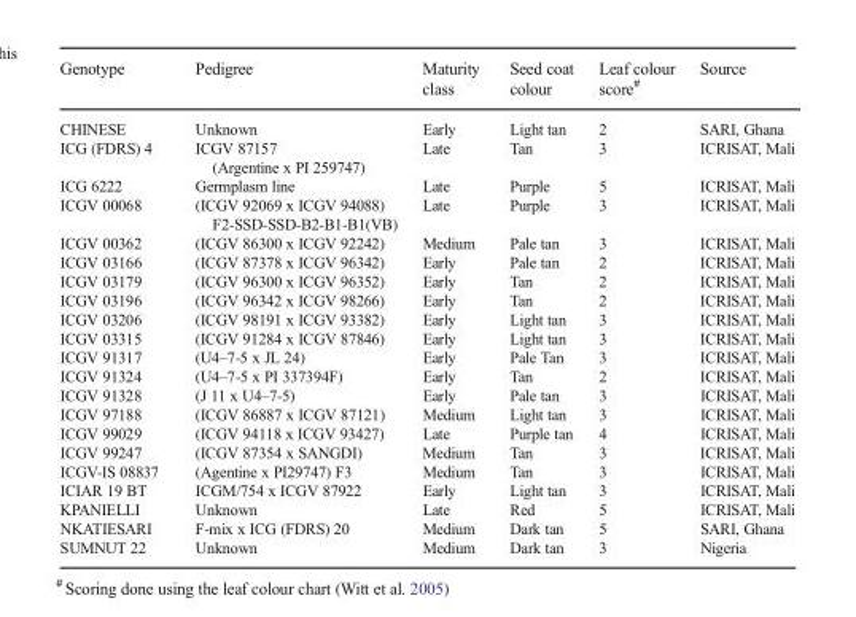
<table><thead><tr><td>Genotype</td><td>Pedigree</td><td>Maturity class</td><td>Seed coat colour</td><td>Leaf colour score<sup>#</sup></td><td>Source</td></tr></thead><tbody><tr><td>CHINESE</td><td>Unknown</td><td>Early</td><td>Light tan</td><td>2</td><td>SARI, Ghana</td></tr><tr><td>ICG (FDRS) 4</td><td>ICGV 87157 (Argentine x PI 259747)</td><td>Late</td><td>Tan</td><td>3</td><td>ICRISAT, Mali</td></tr><tr><td>ICG 6222</td><td>Germplasm line</td><td>Late</td><td>Purple</td><td>5</td><td>ICRISAT, Mali</td></tr><tr><td>ICGV 00068</td><td>(ICGV 92069 x ICGV 94088) F2-SSD-SSD-B2-B1-B1(VB)</td><td>Late</td><td>Purple</td><td>3</td><td>ICRISAT, Mali</td></tr><tr><td>ICGV 00362</td><td>(ICGV 86300 x ICGV 92242)</td><td>Medium</td><td>Pale tan</td><td>3</td><td>ICRISAT, Mali</td></tr><tr><td>ICGV 03166</td><td>(ICGV 87378 x ICGV 96342)</td><td>Early</td><td>Pale tan</td><td>2</td><td>ICRISAT, Mali</td></tr><tr><td>ICGV 03179</td><td>(ICGV 96300 x ICGV 96352)</td><td>Early</td><td>Tan</td><td>2</td><td>ICRISAT, Mali</td></tr><tr><td>ICGV 03196</td><td>(ICGV 96342 x ICGV 98266)</td><td>Early</td><td>Tan</td><td>2</td><td>ICRISAT, Mali</td></tr><tr><td>ICGV 03206</td><td>(ICGV 98191 x ICGV 93382)</td><td>Early</td><td>Light tan</td><td>3</td><td>ICRISAT, Mali</td></tr><tr><td>ICGV 03315</td><td>(ICGV 91284 x ICGV 87846)</td><td>Early</td><td>Light tan</td><td>3</td><td>ICRISAT, Mali</td></tr><tr><td>ICGV 91317</td><td>(U4–7-5 x JL 24)</td><td>Early</td><td>Pale Tan</td><td>3</td><td>ICRISAT, Mali</td></tr><tr><td>ICGV 91324</td><td>(U4–7-5 x PI 337394F)</td><td>Early</td><td>Tan</td><td>2</td><td>ICRISAT, Mali</td></tr><tr><td>ICGV 91328</td><td>(J 11 x U4–7-5)</td><td>Early</td><td>Pale tan</td><td>3</td><td>ICRISAT, Mali</td></tr><tr><td>ICGV 97188</td><td>(ICGV 86887 x ICGV 87121)</td><td>Medium</td><td>Light tan</td><td>3</td><td>ICRISAT, Mali</td></tr><tr><td>ICGV 99029</td><td>(ICGV 94118 x ICGV 93427)</td><td>Late</td><td>Purple tan</td><td>4</td><td>ICRISAT, Mali</td></tr><tr><td>ICGV 99247</td><td>(ICGV 87354 x SANGDI)</td><td>Medium</td><td>Tan</td><td>3</td><td>ICRISAT, Mali</td></tr><tr><td>ICGV-IS 08837</td><td>(Agentine x PI29747) F3</td><td>Medium</td><td>Tan</td><td>3</td><td>ICRISAT, Mali</td></tr><tr><td>ICIAR 19 BT</td><td>ICGM/754 x ICGV 87922</td><td>Early</td><td>Light tan</td><td>3</td><td>ICRISAT, Mali</td></tr><tr><td>KPANIELLI</td><td>Unknown</td><td>Late</td><td>Red</td><td>5</td><td>ICRISAT, Mali</td></tr><tr><td>NKATIESARI</td><td>F-mix x ICG (FDRS) 20</td><td>Medium</td><td>Dark tan</td><td>5</td><td>SARI, Ghana</td></tr><tr><td>SUMNUT 22</td><td>Unknown</td><td>Medium</td><td>Dark tan</td><td>3</td><td>Nigeria</td></tr></tbody></table>